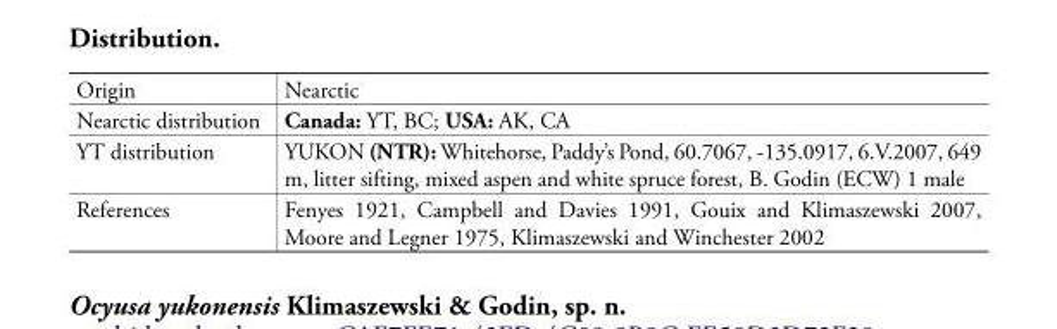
<table><tbody><tr><td>Origin</td><td>Nearctic</td></tr><tr><td>Nearctic distribution</td><td>Canada: YT, BC; USA: AK, CA</td></tr><tr><td>YT distribution</td><td>YUKON (NTR): Whitehorse, Paddy’s Pond, 60.7067, -135.0917, 6.V.2007, 649 m, litter sifting, mixed aspen and white spruce forest, B. Godin (ECW) 1 male</td></tr><tr><td>References</td><td>Fenyes 1921, Campbell and Davies 1991, Gouix and Klimaszewski 2007, Moore and Legner 1975, Klimaszewski and Winchester 2002</td></tr></tbody></table>